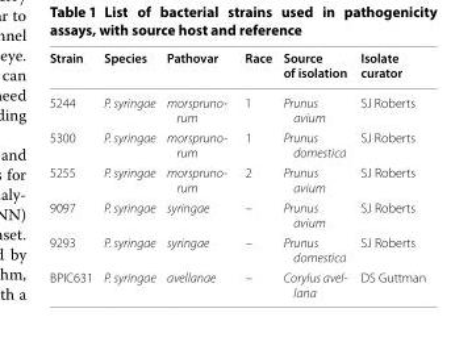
<table><thead><tr><td>Strain</td><td>Species</td><td>Pathovar</td><td>Race</td><td>Source of isolation</td><td>Isolate curator</td></tr></thead><tbody><tr><td>5244</td><td>P. syringae</td><td>morspruno- rum</td><td>1</td><td>Prunus avium</td><td>SJ Roberts</td></tr><tr><td>5300</td><td>P. syringae</td><td>morspruno- rum</td><td>1</td><td>Prunus domestica</td><td>SJ Roberts</td></tr><tr><td>5255</td><td>P. syringae</td><td>morspruno- rum</td><td>2</td><td>Prunus avium</td><td>SJ Roberts</td></tr><tr><td>9097</td><td>P. syringae</td><td>syringae</td><td>–</td><td>Prunus avium</td><td>SJ Roberts</td></tr><tr><td>9293</td><td>P. syringae</td><td>syringae</td><td>–</td><td>Prunus domestica</td><td>SJ Roberts</td></tr><tr><td>BPIC631</td><td>P. syringae</td><td>avellanae</td><td>–</td><td>Corylus avel- lana</td><td>DS Guttman</td></tr></tbody></table>